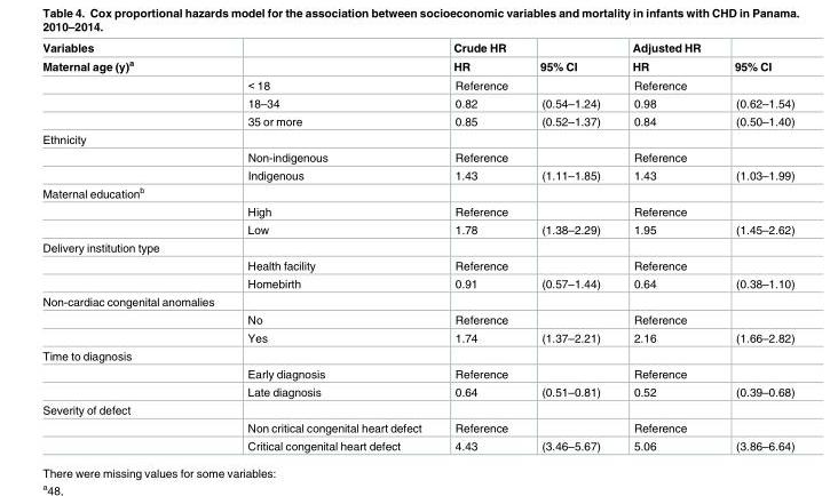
<table><thead><tr><td rowspan="2">Variables Maternal age (y)<sup>a</sup></td><td rowspan="2"></td><td rowspan="2">Crude HR HR</td><td rowspan="2">95% CI</td><td rowspan="2">Adjusted HR HR</td><td rowspan="2">95% CI</td></tr><tr></tr></thead><tbody><tr><td></td><td>&lt; 18</td><td>Reference</td><td></td><td>Reference</td><td></td></tr><tr><td></td><td>18–34</td><td>0.82</td><td>(0.54–1.24)</td><td>0.98</td><td>(0.62–1.54)</td></tr><tr><td></td><td>35 or more</td><td>0.85</td><td>(0.52–1.37)</td><td>0.84</td><td>(0.50–1.40)</td></tr><tr><td colspan="6">Ethnicity</td></tr><tr><td></td><td>Non-indigenous</td><td>Reference</td><td></td><td>Reference</td><td></td></tr><tr><td></td><td>Indigenous</td><td>1.43</td><td>(1.11–1.85)</td><td>1.43</td><td>(1.03–1.99)</td></tr><tr><td colspan="6">Maternal education<sup>b</sup></td></tr><tr><td></td><td>High</td><td>Reference</td><td></td><td>Reference</td><td></td></tr><tr><td></td><td>Low</td><td>1.78</td><td>(1.38–2.29)</td><td>1.95</td><td>(1.45–2.62)</td></tr><tr><td colspan="6">Delivery institution type</td></tr><tr><td></td><td>Health facility</td><td>Reference</td><td></td><td>Reference</td><td></td></tr><tr><td></td><td>Homebirth</td><td>0.91</td><td>(0.57–1.44)</td><td>0.64</td><td>(0.38–1.10)</td></tr><tr><td colspan="6">Non-cardiac congenital anomalies</td></tr><tr><td></td><td>No</td><td>Reference</td><td></td><td>Reference</td><td></td></tr><tr><td></td><td>Yes</td><td>1.74</td><td>(1.37–2.21)</td><td>2.16</td><td>(1.66–2.82)</td></tr><tr><td colspan="6">Time to diagnosis</td></tr><tr><td></td><td>Early diagnosis</td><td>Reference</td><td></td><td>Reference</td><td></td></tr><tr><td></td><td>Late diagnosis</td><td>0.64</td><td>(0.51–0.81)</td><td>0.52</td><td>(0.39–0.68)</td></tr><tr><td colspan="6">Severity of defect</td></tr><tr><td></td><td>Non critical congenital heart defect</td><td>Reference</td><td></td><td>Reference</td><td></td></tr><tr><td></td><td>Critical congenital heart defect</td><td>4.43</td><td>(3.46–5.67)</td><td>5.06</td><td>(3.86–6.64)</td></tr></tbody></table>